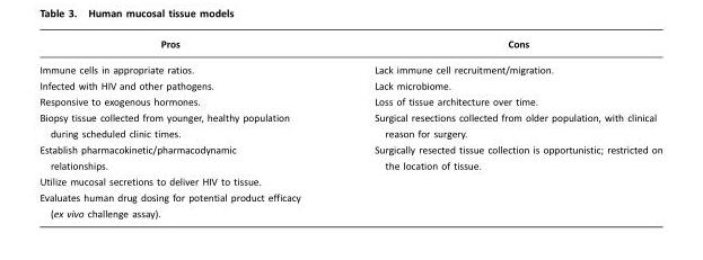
<table><thead><tr><td>Pros</td><td>Cons</td></tr></thead><tbody><tr><td>Immune cells in appropriate ratios.</td><td>Lack immune cell recruitment/migration.</td></tr><tr><td>Infected with HIV and other pathogens.</td><td>Lack microbiome.</td></tr><tr><td>Responsive to exogenous hormones.</td><td>Loss of tissue architecture over time.</td></tr><tr><td>Biopsy tissue collected from younger, healthy population during scheduled clinic times.</td><td>Surgical resections collected from older population, with clinical reason for surgery.</td></tr><tr><td>Establish pharmacokinetic/pharmacodynamic relationships.</td><td>Surgically resected tissue collection is opportunistic; restricted on the location of tissue.</td></tr><tr><td colspan="2">Utilize mucosal secretions to deliver HIV to tissue.</td></tr><tr><td>Evaluates human drug dosing for potential product efficacy (ex vivo challenge assay).</td><td></td></tr></tbody></table>